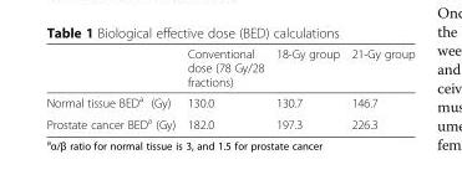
<table><thead><tr><td></td><td>Conventional dose (78 Gy/28 fractions)</td><td>18-Gy group</td><td>21-Gy group</td></tr></thead><tbody><tr><td>Normal tissue BED<sup>a</sup> (Gy)</td><td>130.0</td><td>130.7</td><td>146.7</td></tr><tr><td>Prostate cancer BED<sup>a</sup> (Gy)</td><td>182.0</td><td>197.3</td><td>226.3</td></tr></tbody></table>